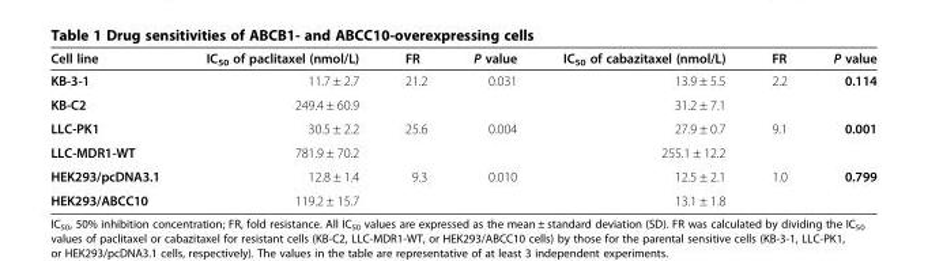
<table><thead><tr><td>Cell line</td><td>IC<sub>50</sub> of paclitaxel (nmol/L)</td><td>FR</td><td>P value</td><td>IC<sub>50</sub> of cabazitaxel (nmol/L)</td><td>FR</td><td>P value</td></tr></thead><tbody><tr><td>KB-3-1</td><td>11.7 ± 2.7</td><td rowspan="2">21.2</td><td rowspan="2">0.031</td><td>13.9 ± 5.5</td><td rowspan="2">2.2</td><td rowspan="2">0.114</td></tr><tr><td>KB-C2</td><td>249.4 ± 60.9</td><td>31.2 ± 7.1</td></tr><tr><td>LLC-PK1</td><td>30.5 ± 2.2</td><td rowspan="2">25.6</td><td rowspan="2">0.004</td><td>27.9 ± 0.7</td><td rowspan="2">9.1</td><td rowspan="2">0.001</td></tr><tr><td>LLC-MDR1-WT</td><td>781.9 ± 70.2</td><td>255.1 ± 12.2</td></tr><tr><td>HEK293/pcDNA3.1</td><td>12.8 ± 1.4</td><td rowspan="2">9.3</td><td rowspan="2">0.010</td><td>12.5 ± 2.1</td><td rowspan="2">1.0</td><td rowspan="2">0.799</td></tr><tr><td>HEK293/ABCC10</td><td>119.2 ± 15.7</td><td>13.1 ± 1.8</td></tr></tbody></table>